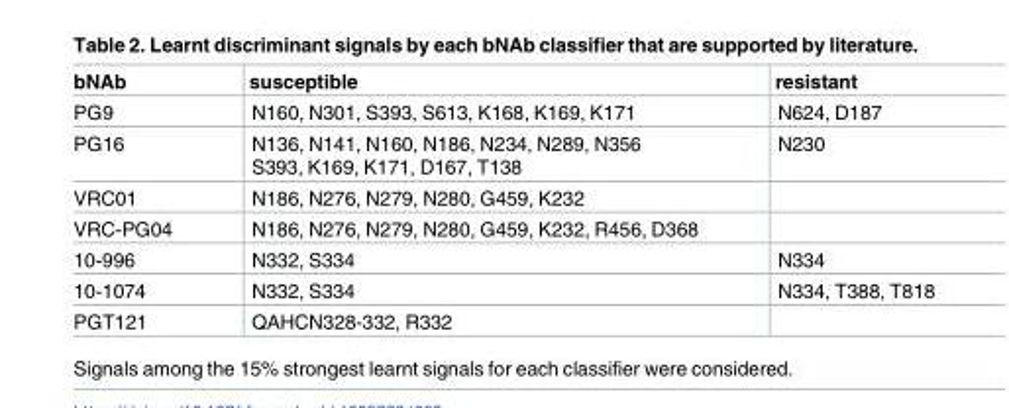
<table><thead><tr><td>bNAb</td><td>susceptible</td><td>resistant</td></tr></thead><tbody><tr><td>PG9</td><td>N160, N301, S393, S613, K168, K169, K171</td><td>N624, D187</td></tr><tr><td>PG16</td><td>N136, N141, N160, N186, N234, N289, N356 S393, K169, K171, D167, T138</td><td>N230</td></tr><tr><td>VRC01</td><td>N186, N276, N279, N280, G459, K232</td><td></td></tr><tr><td>VRC-PG04</td><td>N186, N276, N279, N280, G459, K232, R456, D368</td><td></td></tr><tr><td>10-996</td><td>N332, S334</td><td>N334</td></tr><tr><td>10-1074</td><td>N332, S334</td><td>N334, T388, T818</td></tr><tr><td>PGT121</td><td>QAHCN328-332, R332</td><td></td></tr></tbody></table>